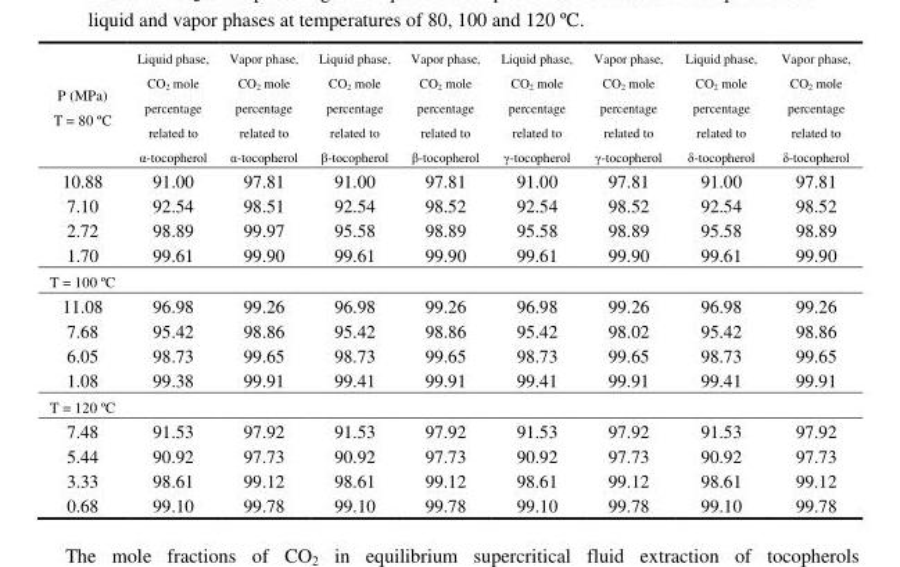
<table><thead><tr><td>P (MPa) T = 80 ºC</td><td>Liquid phase, CO<sub>2</sub> mole percentage related to α-tocopherol</td><td>Vapor phase, CO<sub>2</sub> mole percentage related to α-tocopherol</td><td>Liquid phase, CO<sub>2</sub> mole percentage related to β-tocopherol</td><td>Vapor phase, CO<sub>2</sub> mole percentage related to β-tocopherol</td><td>Liquid phase, CO<sub>2</sub> mole percentage related to γ-tocopherol</td><td>Vapor phase, CO<sub>2</sub> mole percentage related to γ-tocopherol</td><td>Liquid phase, CO<sub>2</sub> mole percentage related to δ-tocopherol</td><td>Vapor phase, CO<sub>2</sub> mole percentage related to δ-tocopherol</td></tr></thead><tbody><tr><td>10.88</td><td>91.00</td><td>97.81</td><td>91.00</td><td>97.81</td><td>91.00</td><td>97.81</td><td>91.00</td><td>97.81</td></tr><tr><td>7.10</td><td>92.54</td><td>98.51</td><td>92.54</td><td>98.52</td><td>92.54</td><td>98.52</td><td>92.54</td><td>98.52</td></tr><tr><td>2.72</td><td>98.89</td><td>99.97</td><td>95.58</td><td>98.89</td><td>95.58</td><td>98.89</td><td>95.58</td><td>98.89</td></tr><tr><td>1.70</td><td>99.61</td><td>99.90</td><td>99.61</td><td>99.90</td><td>99.61</td><td>99.90</td><td>99.61</td><td>99.90</td></tr><tr><td colspan="9">T = 100 ºC</td></tr><tr><td>11.08</td><td>96.98</td><td>99.26</td><td>96.98</td><td>99.26</td><td>96.98</td><td>99.26</td><td>96.98</td><td>99.26</td></tr><tr><td>7.68</td><td>95.42</td><td>98.86</td><td>95.42</td><td>98.86</td><td>95.42</td><td>98.02</td><td>95.42</td><td>98.86</td></tr><tr><td>6.05</td><td>98.73</td><td>99.65</td><td>98.73</td><td>99.65</td><td>98.73</td><td>99.65</td><td>98.73</td><td>99.65</td></tr><tr><td>1.08</td><td>99.38</td><td>99.91</td><td>99.41</td><td>99.91</td><td>99.41</td><td>99.91</td><td>99.41</td><td>99.91</td></tr><tr><td colspan="9">T = 120 ºC</td></tr><tr><td>7.48</td><td>91.53</td><td>97.92</td><td>91.53</td><td>97.92</td><td>91.53</td><td>97.92</td><td>91.53</td><td>97.92</td></tr><tr><td>5.44</td><td>90.92</td><td>97.73</td><td>90.92</td><td>97.73</td><td>90.92</td><td>97.73</td><td>90.92</td><td>97.73</td></tr><tr><td>3.33</td><td>98.61</td><td>99.12</td><td>98.61</td><td>99.12</td><td>98.61</td><td>99.12</td><td>98.61</td><td>99.12</td></tr><tr><td>0.68</td><td>99.10</td><td>99.78</td><td>99.10</td><td>99.78</td><td>99.10</td><td>99.78</td><td>99.10</td><td>99.78</td></tr></tbody></table>